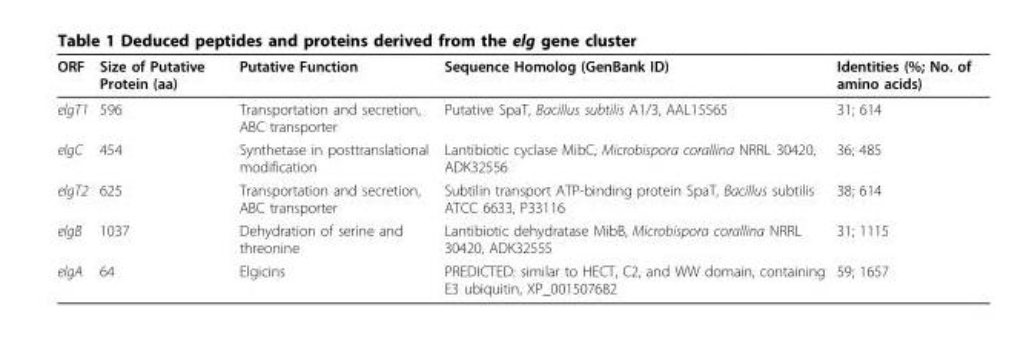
<table><thead><tr><td>ORF</td><td>Size of Putative Protein (aa)</td><td>Putative Function</td><td>Sequence Homolog (GenBank ID)</td><td>Identities (%; No. of amino acids)</td></tr></thead><tbody><tr><td>elgT1</td><td>596</td><td>Transportation and secretion, ABC transporter</td><td>Putative SpaT, Bacillus subtilis A1/3, AAL15565</td><td>31; 614</td></tr><tr><td>elgC</td><td>454</td><td>Synthetase in posttranslational modification</td><td>Lantibiotic cyclase MibC, Microbispora corallina NRRL 30420, ADK32556</td><td>36; 485</td></tr><tr><td>elgT2</td><td>625</td><td>Transportation and secretion, ABC transporter</td><td>Subtilin transport ATP-binding protein SpaT, Bacillus subtilis ATCC 6633, P33116</td><td>38; 614</td></tr><tr><td>elgB</td><td>1037</td><td>Dehydration of serine and threonine</td><td>Lantibiotic dehydratase MibB, Microbispora corallina NRRL 30420, ADK32555</td><td>31; 1115</td></tr><tr><td>elgA</td><td>64</td><td>Elgicins</td><td>PREDICTED: similar to HECT, C2, and WW domain, containing E3 ubiquitin, XP_001507682</td><td>59; 1657</td></tr></tbody></table>